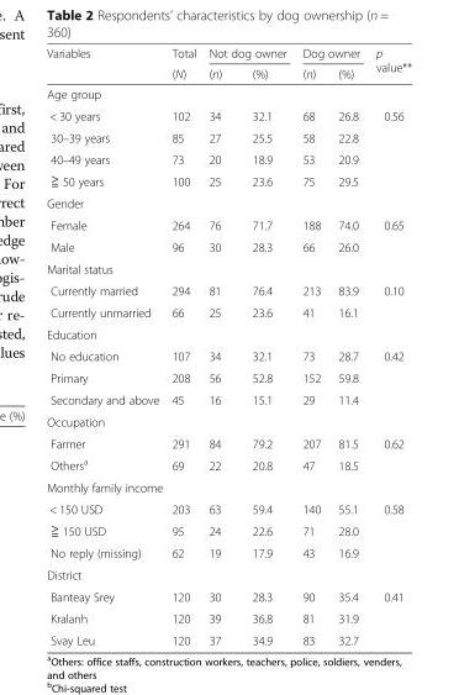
<table><thead><tr><td rowspan="2">Variables</td><td rowspan="2">Total (N)</td><td colspan="2">Not dog owner</td><td colspan="2">Dog owner</td><td rowspan="2">p value**</td></tr><tr><td>(n)</td><td>(%)</td><td>(n)</td><td>(%)</td></tr></thead><tbody><tr><td colspan="7">Age group</td></tr><tr><td>&lt; 30 years</td><td>102</td><td>34</td><td>32.1</td><td>68</td><td>26.8</td><td rowspan="4">0.56</td></tr><tr><td>30–39 years</td><td>85</td><td>27</td><td>25.5</td><td>58</td><td>22.8</td></tr><tr><td>40–49 years</td><td>73</td><td>20</td><td>18.9</td><td>53</td><td>20.9</td></tr><tr><td>≧ 50 years</td><td>100</td><td>25</td><td>23.6</td><td>75</td><td>29.5</td></tr><tr><td colspan="7">Gender</td></tr><tr><td>Female</td><td>264</td><td>76</td><td>71.7</td><td>188</td><td>74.0</td><td rowspan="2">0.65</td></tr><tr><td>Male</td><td>96</td><td>30</td><td>28.3</td><td>66</td><td>26.0</td></tr><tr><td colspan="7">Marital status</td></tr><tr><td>Currently married</td><td>294</td><td>81</td><td>76.4</td><td>213</td><td>83.9</td><td rowspan="2">0.10</td></tr><tr><td>Currently unmarried</td><td>66</td><td>25</td><td>23.6</td><td>41</td><td>16.1</td></tr><tr><td colspan="7">Education</td></tr><tr><td>No education</td><td>107</td><td>34</td><td>32.1</td><td>73</td><td>28.7</td><td rowspan="2">0.42</td></tr><tr><td>Primary</td><td>208</td><td>56</td><td>52.8</td><td>152</td><td>59.8</td></tr><tr><td>Secondary and above</td><td>45</td><td>16</td><td>15.1</td><td>29</td><td>11.4</td><td></td></tr><tr><td colspan="7">Occupation</td></tr><tr><td>Farmer</td><td>291</td><td>84</td><td>79.2</td><td>207</td><td>81.5</td><td rowspan="2">0.62</td></tr><tr><td>Others<sup>a</sup></td><td>69</td><td>22</td><td>20.8</td><td>47</td><td>18.5</td></tr><tr><td colspan="7">Monthly family income</td></tr><tr><td>&lt; 150 USD</td><td>203</td><td>63</td><td>59.4</td><td>140</td><td>55.1</td><td rowspan="3">0.58</td></tr><tr><td>≧ 150 USD</td><td>95</td><td>24</td><td>22.6</td><td>71</td><td>28.0</td></tr><tr><td>No reply (missing)</td><td>62</td><td>19</td><td>17.9</td><td>43</td><td>16.9</td></tr><tr><td colspan="7">District</td></tr><tr><td>Banteay Srey</td><td>120</td><td>30</td><td>28.3</td><td>90</td><td>35.4</td><td rowspan="3">0.41</td></tr><tr><td>Kralanh</td><td>120</td><td>39</td><td>36.8</td><td>81</td><td>31.9</td></tr><tr><td>Svay Leu</td><td>120</td><td>37</td><td>34.9</td><td>83</td><td>32.7</td></tr></tbody></table>